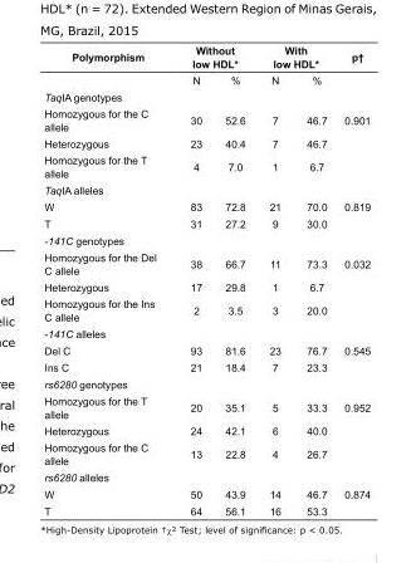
<table><tbody><tr><td rowspan="2">Polymorphism</td><td colspan="2">Without low HDL*</td><td colspan="2">With low HDL*</td><td>p†</td></tr><tr><td>N</td><td>%</td><td>N</td><td>%</td><td></td></tr><tr><td colspan="6">TaqIA genotypes</td></tr><tr><td>Homozygous for the C allele</td><td>30</td><td>52.6</td><td>7</td><td>46.7</td><td>0.901</td></tr><tr><td>Heterozygous</td><td>23</td><td>40.4</td><td>7</td><td>46.7</td><td></td></tr><tr><td>Homozygous for the T allele</td><td>4</td><td>7.0</td><td>1</td><td>6.7</td><td></td></tr><tr><td colspan="6">TaqIA alleles</td></tr><tr><td>W</td><td>83</td><td>72.8</td><td>21</td><td>70.0</td><td>0.819</td></tr><tr><td>T</td><td>31</td><td>27.2</td><td>9</td><td>30.0</td><td></td></tr><tr><td colspan="6">-141C genotypes</td></tr><tr><td>Homozygous for the Del C allele</td><td>38</td><td>66.7</td><td>11</td><td>73.3</td><td>0.032</td></tr><tr><td>Heterozygous</td><td>17</td><td>29.8</td><td>1</td><td>6.7</td><td></td></tr><tr><td>Homozygous for the Ins C allele</td><td>2</td><td>3.5</td><td>3</td><td>20.0</td><td></td></tr><tr><td colspan="6">-141C alleles</td></tr><tr><td>Del C</td><td>93</td><td>81.6</td><td>23</td><td>76.7</td><td>0.545</td></tr><tr><td>Ins C</td><td>21</td><td>18.4</td><td>7</td><td>23.3</td><td></td></tr><tr><td colspan="6">rs6280 genotypes</td></tr><tr><td>Homozygous for the T allele</td><td>20</td><td>35.1</td><td>5</td><td>33.3</td><td>0.952</td></tr><tr><td>Heterozygous</td><td>24</td><td>42.1</td><td>6</td><td>40.0</td><td></td></tr><tr><td>Homozygous for the C allele</td><td>13</td><td>22.8</td><td>4</td><td>26.7</td><td></td></tr><tr><td colspan="6">rs6280 alleles</td></tr><tr><td>W</td><td>50</td><td>43.9</td><td>14</td><td>46.7</td><td>0.874</td></tr><tr><td>T</td><td>64</td><td>56.1</td><td>16</td><td>53.3</td><td></td></tr></tbody></table>